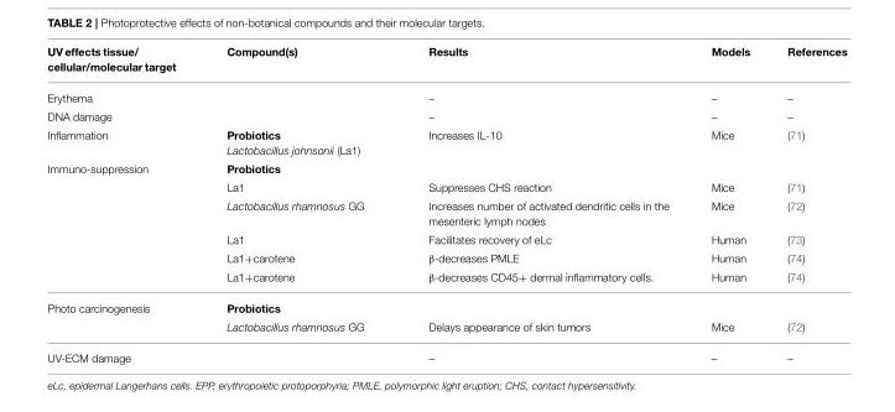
<table><thead><tr><td>UV effects tissue/ cellular/molecular target</td><td>Compound(s)</td><td>Results</td><td>Models</td><td>References</td></tr></thead><tbody><tr><td>Erythema</td><td></td><td>–</td><td>–</td><td>–</td></tr><tr><td>DNA damage</td><td></td><td>–</td><td>–</td><td>–</td></tr><tr><td>Inflammation</td><td>Probiotics Lactobacillus johnsonii (La1)</td><td>Increases IL-10</td><td>Mice</td><td>(71)</td></tr><tr><td rowspan="6">Immuno-suppression</td><td>Probiotics</td><td></td><td></td><td></td></tr><tr><td>La1</td><td>Suppresses CHS reaction</td><td>Mice</td><td>(71)</td></tr><tr><td>Lactobacillus rhamnosus GG</td><td>Increases number of activated dendritic cells in the mesenteric lymph nodes</td><td>Mice</td><td>(72)</td></tr><tr><td>La1</td><td>Facilitates recovery of eLc</td><td>Human</td><td>(73)</td></tr><tr><td>La1+carotene</td><td>β-decreases PMLE</td><td>Human</td><td>(74)</td></tr><tr><td>La1+carotene</td><td>β-decreases CD45+ dermal inflammatory cells.</td><td>Human</td><td>(74)</td></tr><tr><td rowspan="2">Photo carcinogenesis</td><td>Probiotics</td><td></td><td></td><td></td></tr><tr><td>Lactobacillus rhamnosus GG</td><td>Delays appearance of skin tumors</td><td>Mice</td><td>(72)</td></tr><tr><td>UV-ECM damage</td><td></td><td>–</td><td>–</td><td>–</td></tr></tbody></table>